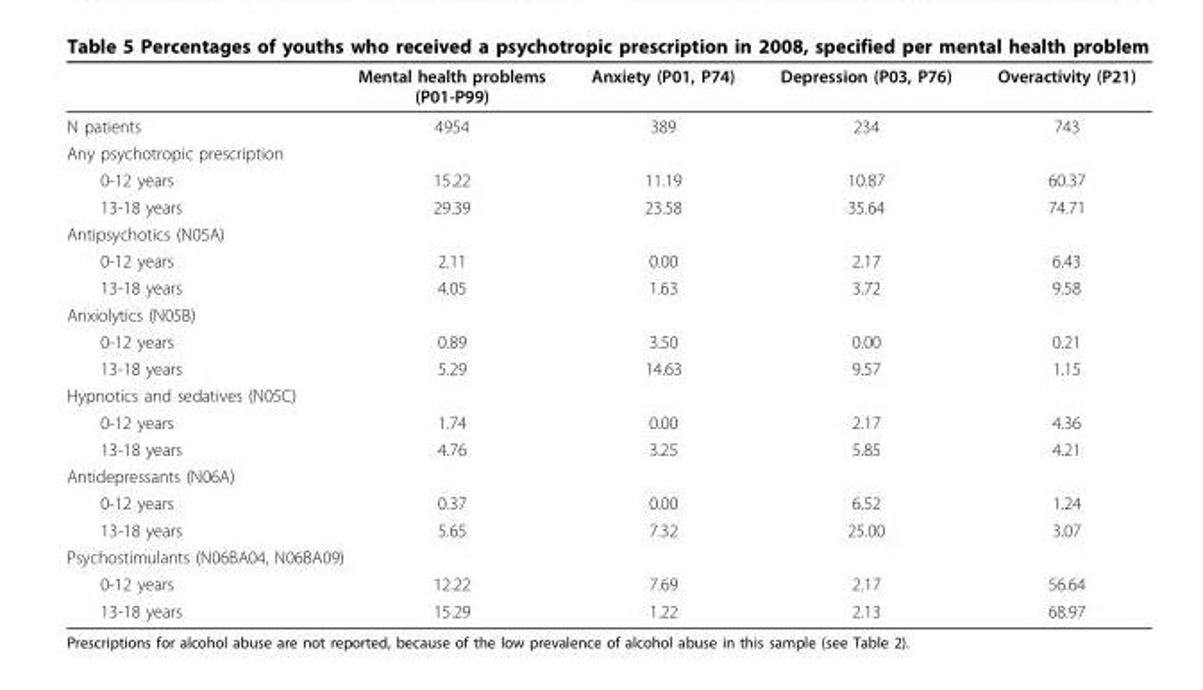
<table><thead><tr><td></td><td>Mental health problems (P01-P99)</td><td>Anxiety (P01, P74)</td><td>Depression (P03, P76)</td><td>Overactivity (P21)</td></tr></thead><tbody><tr><td>N patients</td><td>4954</td><td>389</td><td>234</td><td>743</td></tr><tr><td colspan="5">Any psychotropic prescription</td></tr><tr><td>0-12 years</td><td>15.22</td><td>11.19</td><td>10.87</td><td>60.37</td></tr><tr><td>13-18 years</td><td>29.39</td><td>23.58</td><td>35.64</td><td>74.71</td></tr><tr><td colspan="5">Antipsychotics (N05A)</td></tr><tr><td>0-12 years</td><td>2.11</td><td>0.00</td><td>2.17</td><td>6.43</td></tr><tr><td>13-18 years</td><td>4.05</td><td>1.63</td><td>3.72</td><td>9.58</td></tr><tr><td colspan="5">Anxiolytics (N05B)</td></tr><tr><td>0-12 years</td><td>0.89</td><td>3.50</td><td>0.00</td><td>0.21</td></tr><tr><td>13-18 years</td><td>5.29</td><td>14.63</td><td>9.57</td><td>1.15</td></tr><tr><td colspan="5">Hypnotics and sedatives (N05C)</td></tr><tr><td>0-12 years</td><td>1.74</td><td>0.00</td><td>2.17</td><td>4.36</td></tr><tr><td>13-18 years</td><td>4.76</td><td>3.25</td><td>5.85</td><td>4.21</td></tr><tr><td colspan="5">Antidepressants (N06A)</td></tr><tr><td>0-12 years</td><td>0.37</td><td>0.00</td><td>6.52</td><td>1.24</td></tr><tr><td>13-18 years</td><td>5.65</td><td>7.32</td><td>25.00</td><td>3.07</td></tr><tr><td colspan="5">Psychostimulants (N06BA04, N06BA09)</td></tr><tr><td>0-12 years</td><td>12.22</td><td>7.69</td><td>2.17</td><td>56.64</td></tr><tr><td>13-18 years</td><td>15.29</td><td>1.22</td><td>2.13</td><td>68.97</td></tr></tbody></table>